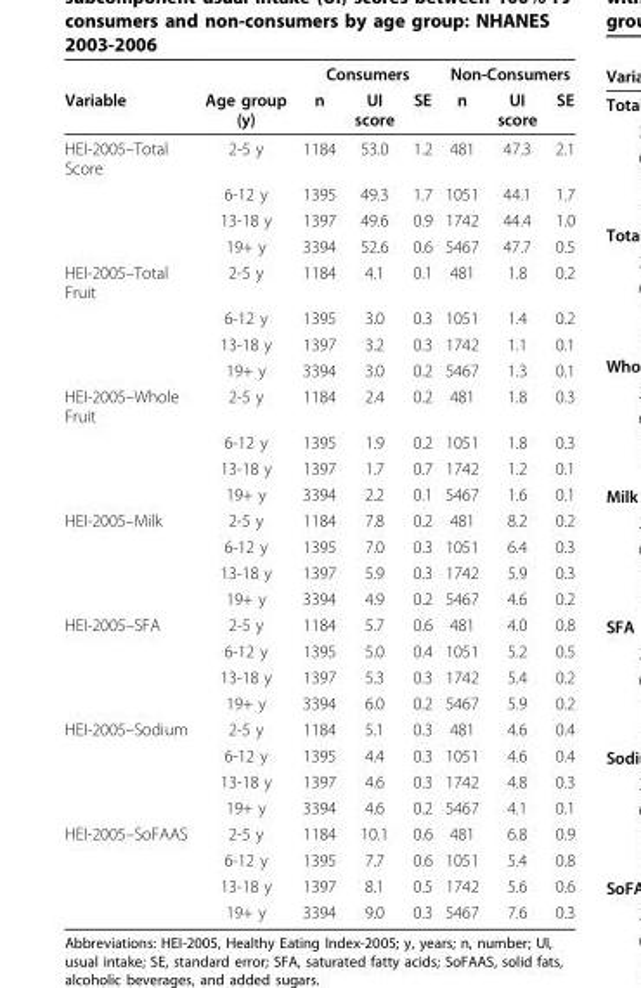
<table><thead><tr><td rowspan="2">Variable</td><td rowspan="2">Age group (y)</td><td colspan="3">Consumers</td><td colspan="3">Non-Consumers</td></tr><tr><td>n</td><td>UI score</td><td>SE</td><td>n</td><td>UI score</td><td>SE</td></tr></thead><tbody><tr><td rowspan="4">HEI-2005–Total Score</td><td>2-5 y</td><td>1184</td><td>53.0</td><td>1.2</td><td>481</td><td>47.3</td><td>2.1</td></tr><tr><td>6-12 y</td><td>1395</td><td>49.3</td><td>1.7</td><td>1051</td><td>44.1</td><td>1.7</td></tr><tr><td>13-18 y</td><td>1397</td><td>49.6</td><td>0.9</td><td>1742</td><td>44.4</td><td>1.0</td></tr><tr><td>19+ y</td><td>3394</td><td>52.6</td><td>0.6</td><td>5467</td><td>47.7</td><td>0.5</td></tr><tr><td rowspan="4">HEI-2005–Total Fruit</td><td>2-5 y</td><td>1184</td><td>4.1</td><td>0.1</td><td>481</td><td>1.8</td><td>0.2</td></tr><tr><td>6-12 y</td><td>1395</td><td>3.0</td><td>0.3</td><td>1051</td><td>1.4</td><td>0.2</td></tr><tr><td>13-18 y</td><td>1397</td><td>3.2</td><td>0.3</td><td>1742</td><td>1.1</td><td>0.1</td></tr><tr><td>19+ y</td><td>3394</td><td>3.0</td><td>0.2</td><td>5467</td><td>1.3</td><td>0.1</td></tr><tr><td rowspan="4">HEI-2005–Whole Fruit</td><td>2-5 y</td><td>1184</td><td>2.4</td><td>0.2</td><td>481</td><td>1.8</td><td>0.3</td></tr><tr><td>6-12 y</td><td>1395</td><td>1.9</td><td>0.2</td><td>1051</td><td>1.8</td><td>0.3</td></tr><tr><td>13-18 y</td><td>1397</td><td>1.7</td><td>0.7</td><td>1742</td><td>1.2</td><td>0.1</td></tr><tr><td>19+ y</td><td>3394</td><td>2.2</td><td>0.1</td><td>5467</td><td>1.6</td><td>0.1</td></tr><tr><td rowspan="4">HEI-2005–Milk</td><td>2-5 y</td><td>1184</td><td>7.8</td><td>0.2</td><td>481</td><td>8.2</td><td>0.2</td></tr><tr><td>6-12 y</td><td>1395</td><td>7.0</td><td>0.3</td><td>1051</td><td>6.4</td><td>0.3</td></tr><tr><td>13-18 y</td><td>1397</td><td>5.9</td><td>0.3</td><td>1742</td><td>5.9</td><td>0.3</td></tr><tr><td>19+ y</td><td>3394</td><td>4.9</td><td>0.2</td><td>5467</td><td>4.6</td><td>0.2</td></tr><tr><td rowspan="4">HEI-2005–SFA</td><td>2-5 y</td><td>1184</td><td>5.7</td><td>0.6</td><td>481</td><td>4.0</td><td>0.8</td></tr><tr><td>6-12 y</td><td>1395</td><td>5.0</td><td>0.4</td><td>1051</td><td>5.2</td><td>0.5</td></tr><tr><td>13-18 y</td><td>1397</td><td>5.3</td><td>0.3</td><td>1742</td><td>5.4</td><td>0.2</td></tr><tr><td>19+ y</td><td>3394</td><td>6.0</td><td>0.2</td><td>5467</td><td>5.9</td><td>0.2</td></tr><tr><td rowspan="4">HEI-2005–Sodium</td><td>2-5 y</td><td>1184</td><td>5.1</td><td>0.3</td><td>481</td><td>4.6</td><td>0.4</td></tr><tr><td>6-12 y</td><td>1395</td><td>4.4</td><td>0.3</td><td>1051</td><td>4.6</td><td>0.4</td></tr><tr><td>13-18 y</td><td>1397</td><td>4.6</td><td>0.3</td><td>1742</td><td>4.8</td><td>0.3</td></tr><tr><td>19+ y</td><td>3394</td><td>4.6</td><td>0.2</td><td>5467</td><td>4.1</td><td>0.1</td></tr><tr><td rowspan="4">HEI-2005–SoFAAS</td><td>2-5 y</td><td>1184</td><td>10.1</td><td>0.6</td><td>481</td><td>6.8</td><td>0.9</td></tr><tr><td>6-12 y</td><td>1395</td><td>7.7</td><td>0.6</td><td>1051</td><td>5.4</td><td>0.8</td></tr><tr><td>13-18 y</td><td>1397</td><td>8.1</td><td>0.5</td><td>1742</td><td>5.6</td><td>0.6</td></tr><tr><td>19+ y</td><td>3394</td><td>9.0</td><td>0.3</td><td>5467</td><td>7.6</td><td>0.3</td></tr></tbody></table>